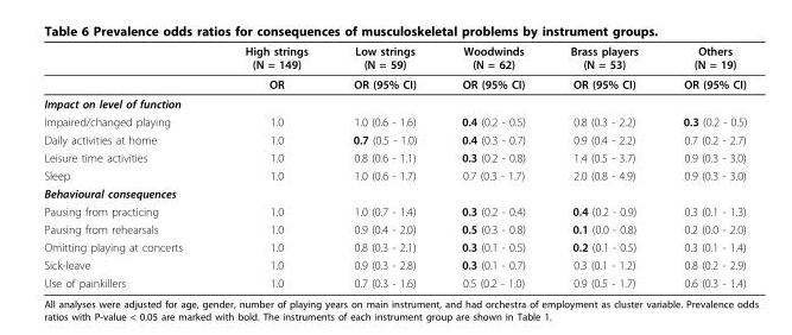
<table><thead><tr><td></td><td>High strings (N = 149)</td><td>Low strings (N = 59)</td><td>Woodwinds (N = 62)</td><td>Brass players (N = 53)</td><td>Others (N = 19)</td></tr></thead><tbody><tr><td></td><td>OR</td><td>OR (95% CI)</td><td>OR (95% CI)</td><td>OR (95% CI)</td><td>OR (95% CI)</td></tr><tr><td colspan="6">Impact on level of function</td></tr><tr><td>Impaired/changed playing</td><td>1.0</td><td>1.0 (0.6 - 1.6)</td><td>0.4 (0.2 - 0.5)</td><td>0.8 (0.3 - 2.2)</td><td>0.3 (0.2 - 0.5)</td></tr><tr><td>Daily activities at home</td><td>1.0</td><td>0.7 (0.5 - 1.0)</td><td>0.4 (0.3 - 0.7)</td><td>0.9 (0.4 - 2.2)</td><td>0.7 (0.2 - 2.7)</td></tr><tr><td>Leisure time activities</td><td>1.0</td><td>0.8 (0.6 - 1.1)</td><td>0.3 (0.2 - 0.8)</td><td>1.4 (0.5 - 3.7)</td><td>0.9 (0.3 - 3.0)</td></tr><tr><td>Sleep</td><td>1.0</td><td>1.0 (0.6 - 1.7)</td><td>0.7 (0.3 - 1.7)</td><td>2.0 (0.8 - 4.9)</td><td>0.9 (0.3 - 3.0)</td></tr><tr><td colspan="6">Behavioural consequences</td></tr><tr><td>Pausing from practicing</td><td>1.0</td><td>1.0 (0.7 - 1.4)</td><td>0.3 (0.2 - 0.4)</td><td>0.4 (0.2 - 0.9)</td><td>0.3 (0.1 - 1.3)</td></tr><tr><td>Pausing from rehearsals</td><td>1.0</td><td>0.9 (0.4 - 2.0)</td><td>0.5 (0.3 - 0.8)</td><td>0.1 (0.0 - 0.8)</td><td>0.2 (0.0 - 2.0)</td></tr><tr><td>Omitting playing at concerts</td><td>1.0</td><td>0.8 (0.3 - 2.1)</td><td>0.3 (0.1 - 0.5)</td><td>0.2 (0.1 - 0.5)</td><td>0.3 (0.1 - 1.4)</td></tr><tr><td>Sick-leave</td><td>1.0</td><td>0.9 (0.3 - 2.8)</td><td>0.3 (0.1 - 0.7)</td><td>0.3 (0.1 - 1.2)</td><td>0.8 (0.2 - 2.9)</td></tr><tr><td>Use of painkillers</td><td>1.0</td><td>0.7 (0.3 - 1.6)</td><td>0.5 (0.2 - 1.0)</td><td>0.9 (0.5 - 1.7)</td><td>0.6 (0.3 - 1.4)</td></tr></tbody></table>